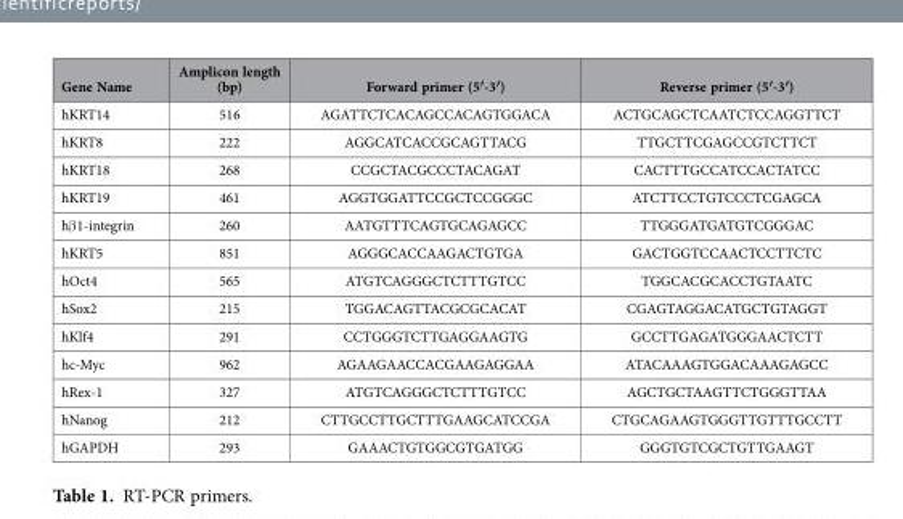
<table><thead><tr><td>Gene Name</td><td>Amplicon length (bp)</td><td>Forward primer (5′-3′)</td><td>Reverse primer (5′-3′)</td></tr></thead><tbody><tr><td>hKRT14</td><td>516</td><td>AGATTCTCACAGCCACAGTGGACA</td><td>ACTGCAGCTCAATCTCCAGGTTCT</td></tr><tr><td>hKRT8</td><td>222</td><td>AGGCATCACCGCAGTTACG</td><td>TTGCTTCGAGCCGTCTTCT</td></tr><tr><td>hKRT18</td><td>268</td><td>CCGCTACGCCCTACAGAT</td><td>CACTTTGCCATCCACTATCC</td></tr><tr><td>hKRT19</td><td>461</td><td>AGGTGGATTCCGCTCCGGGC</td><td>ATCTTCCTGTCCCTCGAGCA</td></tr><tr><td>hβ 1-integrin</td><td>260</td><td>AATGTTTCAGTGCAGAGCC</td><td>TTGGGATGATGTCGGGAC</td></tr><tr><td>hKRT5</td><td>851</td><td>AGGGCACCAAGACTGTGA</td><td>GACTGGTCCAACTCCTTCTC</td></tr><tr><td>hOct4</td><td>565</td><td>ATGTCAGGGCTCTTTGTCC</td><td>TGGCACGCACCTGTAATC</td></tr><tr><td>hSox2</td><td>215</td><td>TGGACAGTTACGCGCACAT</td><td>CGAGTAGGACATGCTGTAGGT</td></tr><tr><td>hKlf4</td><td>291</td><td>CCTGGGTCTTGAGGAAGTG</td><td>GCCTTGAGATGGGAACTCTT</td></tr><tr><td>hc-Myc</td><td>962</td><td>AGAAGAACCACGAAGAGGAA</td><td>ATACAAAGTGGACAAAGAGCC</td></tr><tr><td>hRex-1</td><td>327</td><td>ATGTCAGGGCTCTTTGTCC</td><td>AGCTGCTAAGTTCTGGGTTAA</td></tr><tr><td>hNanog</td><td>212</td><td>CTTGCCTTGCTTTGAAGCATCCGA</td><td>CTGCAGAAGTGGGTTGTTTGCCTT</td></tr><tr><td>hGAPDH</td><td>293</td><td>GAAACTGTGGCGTGATGG</td><td>GGGTGTCGCTGTTGAAGT</td></tr></tbody></table>